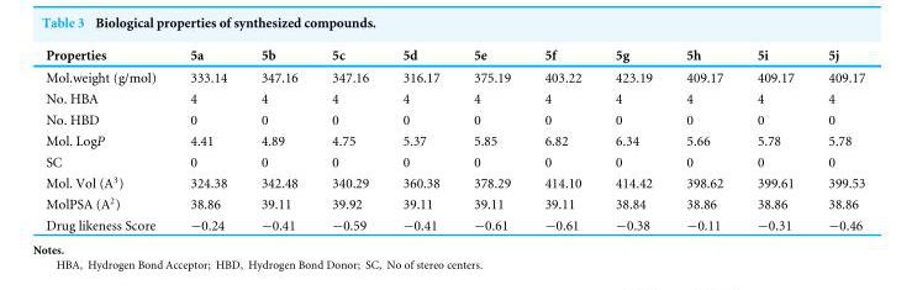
<table><thead><tr><td>Properties</td><td>5a</td><td>5b</td><td>5c</td><td>5d</td><td>5e</td><td>5f</td><td>5g</td><td>5h</td><td>5i</td><td>5j</td></tr></thead><tbody><tr><td>Mol.weight (g/mol)</td><td>333.14</td><td>347.16</td><td>347.16</td><td>316.17</td><td>375.19</td><td>403.22</td><td>423.19</td><td>409.17</td><td>409.17</td><td>409.17</td></tr><tr><td>No. HBA</td><td>4</td><td>4</td><td>4</td><td>4</td><td>4</td><td>4</td><td>4</td><td>4</td><td>4</td><td>4</td></tr><tr><td>No. HBD</td><td>0</td><td>0</td><td>0</td><td>0</td><td>0</td><td>0</td><td>0</td><td>0</td><td>0</td><td>0</td></tr><tr><td>Mol. LogP</td><td>4.41</td><td>4.89</td><td>4.75</td><td>5.37</td><td>5.85</td><td>6.82</td><td>6.34</td><td>5.66</td><td>5.78</td><td>5.78</td></tr><tr><td>SC</td><td>0</td><td>0</td><td>0</td><td>0</td><td>0</td><td>0</td><td>0</td><td>0</td><td>0</td><td>0</td></tr><tr><td>Mol. Vol (A<sup>3</sup>)</td><td>324.38</td><td>342.48</td><td>340.29</td><td>360.38</td><td>378.29</td><td>414.10</td><td>414.42</td><td>398.62</td><td>399.61</td><td>399.53</td></tr><tr><td>MolPSA (A<sup>2</sup>)</td><td>38.86</td><td>39.11</td><td>39.92</td><td>39.11</td><td>39.11</td><td>39.11</td><td>38.84</td><td>38.86</td><td>38.86</td><td>38.86</td></tr><tr><td>Drug likeness Score</td><td>−0.24</td><td>−0.41</td><td>−0.59</td><td>−0.41</td><td>−0.61</td><td>−0.61</td><td>−0.38</td><td>−0.11</td><td>−0.31</td><td>−0.46</td></tr></tbody></table>